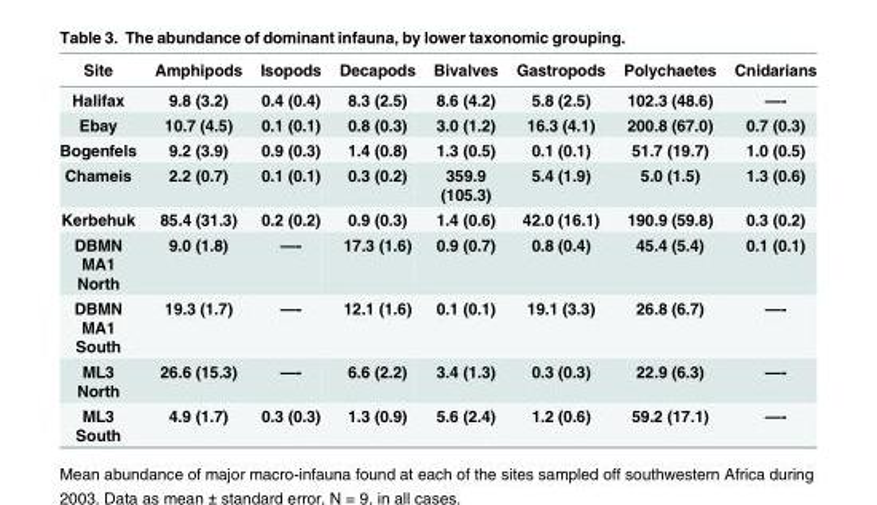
<table><thead><tr><td>Site</td><td>Amphipods</td><td>Isopods</td><td>Decapods</td><td>Bivalves</td><td>Gastropods</td><td>Polychaetes</td><td>Cnidarians</td></tr></thead><tbody><tr><td>Halifax</td><td>9.8 (3.2)</td><td>0.4 (0.4)</td><td>8.3 (2.5)</td><td>8.6 (4.2)</td><td>5.8 (2.5)</td><td>102.3 (48.6)</td><td>—-</td></tr><tr><td>Ebay</td><td>10.7 (4.5)</td><td>0.1 (0.1)</td><td>0.8 (0.3)</td><td>3.0 (1.2)</td><td>16.3 (4.1)</td><td>200.8 (67.0)</td><td>0.7 (0.3)</td></tr><tr><td>Bogenfels</td><td>9.2 (3.9)</td><td>0.9 (0.3)</td><td>1.4 (0.8)</td><td>1.3 (0.5)</td><td>0.1 (0.1)</td><td>51.7 (19.7)</td><td>1.0 (0.5)</td></tr><tr><td>Chameis</td><td>2.2 (0.7)</td><td>0.1 (0.1)</td><td>0.3 (0.2)</td><td>359.9 (105.3)</td><td>5.4 (1.9)</td><td>5.0 (1.5)</td><td>1.3 (0.6)</td></tr><tr><td>Kerbehuk</td><td>85.4 (31.3)</td><td>0.2 (0.2)</td><td>0.9 (0.3)</td><td>1.4 (0.6)</td><td>42.0 (16.1)</td><td>190.9 (59.8)</td><td>0.3 (0.2)</td></tr><tr><td>DBMN MA1 North</td><td>9.0 (1.8)</td><td>—-</td><td>17.3 (1.6)</td><td>0.9 (0.7)</td><td>0.8 (0.4)</td><td>45.4 (5.4)</td><td>0.1 (0.1)</td></tr><tr><td>DBMN MA1 South</td><td>19.3 (1.7)</td><td>—-</td><td>12.1 (1.6)</td><td>0.1 (0.1)</td><td>19.1 (3.3)</td><td>26.8 (6.7)</td><td>—-</td></tr><tr><td>ML3 North</td><td>26.6 (15.3)</td><td>—-</td><td>6.6 (2.2)</td><td>3.4 (1.3)</td><td>0.3 (0.3)</td><td>22.9 (6.3)</td><td>—-</td></tr><tr><td>ML3 South</td><td>4.9 (1.7)</td><td>0.3 (0.3)</td><td>1.3 (0.9)</td><td>5.6 (2.4)</td><td>1.2 (0.6)</td><td>59.2 (17.1)</td><td>—-</td></tr></tbody></table>